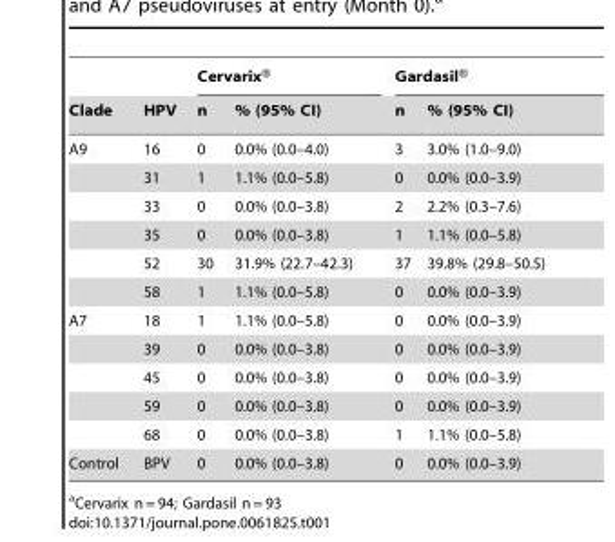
<table><thead><tr><td rowspan="2">Clade</td><td rowspan="2">HPV</td><td colspan="2">Cervarix®</td><td colspan="2">Gardasil®</td></tr><tr><td>n</td><td>% (95% CI)</td><td>n</td><td>% (95% CI)</td></tr></thead><tbody><tr><td rowspan="6">A9</td><td>16</td><td>0</td><td>0.0% (0.0–4.0)</td><td>3</td><td>3.0% (1.0–9.0)</td></tr><tr><td>31</td><td>1</td><td>1.1% (0.0–5.8)</td><td>0</td><td>0.0% (0.0–3.9)</td></tr><tr><td>33</td><td>0</td><td>0.0% (0.0–3.8)</td><td>2</td><td>2.2% (0.3–7.6)</td></tr><tr><td>35</td><td>0</td><td>0.0% (0.0–3.8)</td><td>1</td><td>1.1% (0.0–5.8)</td></tr><tr><td>52</td><td>30</td><td>31.9% (22.7–42.3)</td><td>37</td><td>39.8% (29.8–50.5)</td></tr><tr><td>58</td><td>1</td><td>1.1% (0.0–5.8)</td><td>0</td><td>0.0% (0.0–3.9)</td></tr><tr><td rowspan="5">A7</td><td>18</td><td>1</td><td>1.1% (0.0–5.8)</td><td>0</td><td>0.0% (0.0–3.9)</td></tr><tr><td>39</td><td>0</td><td>0.0% (0.0–3.8)</td><td>0</td><td>0.0% (0.0–3.9)</td></tr><tr><td>45</td><td>0</td><td>0.0% (0.0–3.8)</td><td>0</td><td>0.0% (0.0–3.9)</td></tr><tr><td>59</td><td>0</td><td>0.0% (0.0–3.8)</td><td>0</td><td>0.0% (0.0–3.9)</td></tr><tr><td>68</td><td>0</td><td>0.0% (0.0–3.8)</td><td>1</td><td>1.1% (0.0–5.8)</td></tr><tr><td>Control</td><td>BPV</td><td>0</td><td>0.0% (0.0–3.8)</td><td>0</td><td>0.0% (0.0–3.9)</td></tr></tbody></table>